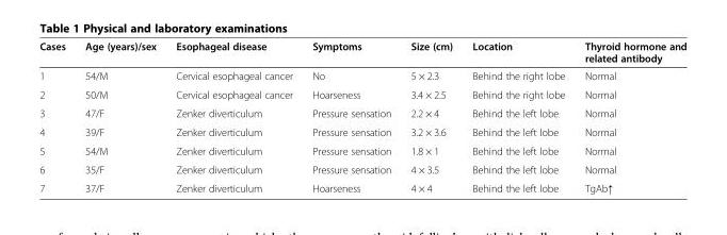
<table><thead><tr><td>Cases</td><td>Age (years)/sex</td><td>Esophageal disease</td><td>Symptoms</td><td>Size (cm)</td><td>Location</td><td>Thyroid hormone and related antibody</td></tr></thead><tbody><tr><td>1</td><td>54/M</td><td>Cervical esophageal cancer</td><td>No</td><td>5 × 2.3</td><td>Behind the right lobe</td><td>Normal</td></tr><tr><td>2</td><td>50/M</td><td>Cervical esophageal cancer</td><td>Hoarseness</td><td>3.4 × 2.5</td><td>Behind the right lobe</td><td>Normal</td></tr><tr><td>3</td><td>47/F</td><td>Zenker diverticulum</td><td>Pressure sensation</td><td>2.2 × 4</td><td>Behind the left lobe</td><td>Normal</td></tr><tr><td>4</td><td>39/F</td><td>Zenker diverticulum</td><td>Pressure sensation</td><td>3.2 × 3.6</td><td>Behind the left lobe</td><td>Normal</td></tr><tr><td>5</td><td>54/M</td><td>Zenker diverticulum</td><td>Pressure sensation</td><td>1.8 × 1</td><td>Behind the left lobe</td><td>Normal</td></tr><tr><td>6</td><td>35/F</td><td>Zenker diverticulum</td><td>Pressure sensation</td><td>4 × 3.5</td><td>Behind the left lobe</td><td>Normal</td></tr><tr><td>7</td><td>37/F</td><td>Zenker diverticulum</td><td>Hoarseness</td><td>4 × 4</td><td>Behind the left lobe</td><td>TgAb↑</td></tr></tbody></table>